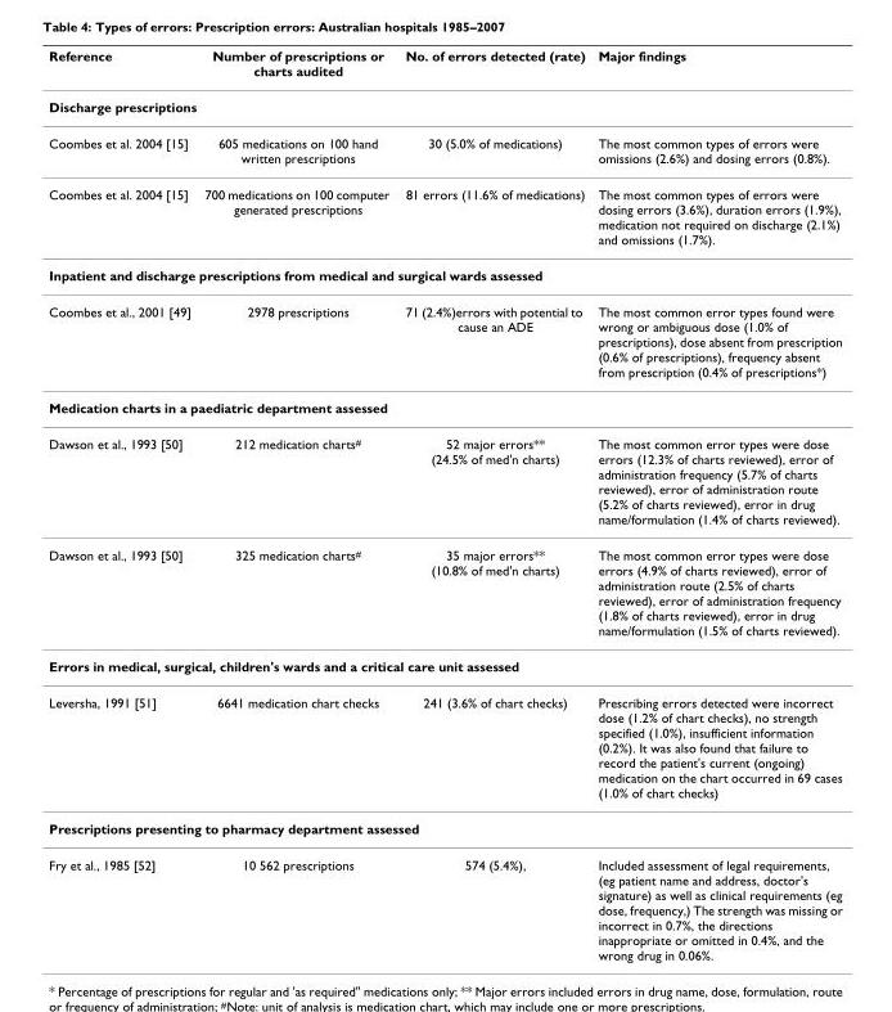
<table><thead><tr><td>Reference</td><td>Number of prescriptions or charts audited</td><td>No. of errors detected (rate)</td><td>Major findings</td></tr></thead><tbody><tr><td colspan="4">Discharge prescriptions</td></tr><tr><td>Coombes et al. 2004 [15]</td><td>605 medications on 100 hand written prescriptions</td><td>30 (5.0% of medications)</td><td>The most common types of errors were omissions (2.6%) and dosing errors (0.8%).</td></tr><tr><td>Coombes et al. 2004 [15]</td><td>700 medications on 100 computer generated prescriptions</td><td>81 errors (11.6% of medications)</td><td>The most common types of errors were dosing errors (3.6%), duration errors (1.9%), medication not required on discharge (2.1%) and omissions (1.7%).</td></tr><tr><td colspan="4">Inpatient and discharge prescriptions from medical and surgical wards assessed</td></tr><tr><td>Coombes et al., 2001 [49]</td><td>2978 prescriptions</td><td>71 (2.4%)errors with potential to cause an ADE</td><td>The most common error types found were wrong or ambiguous dose (1.0% of prescriptions), dose absent from prescription (0.6% of prescriptions), frequency absent from prescription (0.4% of prescriptions*)</td></tr><tr><td colspan="4">Medication charts in a paediatric department assessed</td></tr><tr><td>Dawson et al., 1993 [50]</td><td>212 medication charts<sup>#</sup></td><td>52 major errors** (24.5% of med&#x27;n charts)</td><td>The most common error types were dose errors (12.3% of charts reviewed), error of administration frequency (5.7% of charts reviewed), error of administration route (5.2% of charts reviewed), error in drug name/formulation (1.4% of charts reviewed).</td></tr><tr><td>Dawson et al., 1993 [50]</td><td>325 medication charts<sup>#</sup></td><td>35 major errors** (10.8% of med&#x27;n charts)</td><td>The most common error types were dose errors (4.9% of charts reviewed), error of administration route (2.5% of charts reviewed), error of administration frequency (1.8% of charts reviewed), error in drug name/formulation (1.5% of charts reviewed).</td></tr><tr><td colspan="4">Errors in medical, surgical, children&#x27;s wards and a critical care unit assessed</td></tr><tr><td>Leversha, 1991 [51]</td><td>6641 medication chart checks</td><td>241 (3.6% of chart checks)</td><td>Prescribing errors detected were incorrect dose (1.2% of chart checks), no strength specified (1.0%), insufficient information (0.2%). It was also found that failure to record the patient&#x27;s current (ongoing) medication on the chart occurred in 69 cases (1.0% of chart checks)</td></tr><tr><td colspan="4">Prescriptions presenting to pharmacy department assessed</td></tr><tr><td>Fry et al., 1985 [52]</td><td>10 562 prescriptions</td><td>574 (5.4%),</td><td>Included assessment of legal requirements, (eg patient name and address, doctor&#x27;s signature) as well as clinical requirements (eg dose, frequency,) The strength was missing or incorrect in 0.7%, the directions inappropriate or omitted in 0.4%, and the wrong drug in 0.06%.</td></tr></tbody></table>